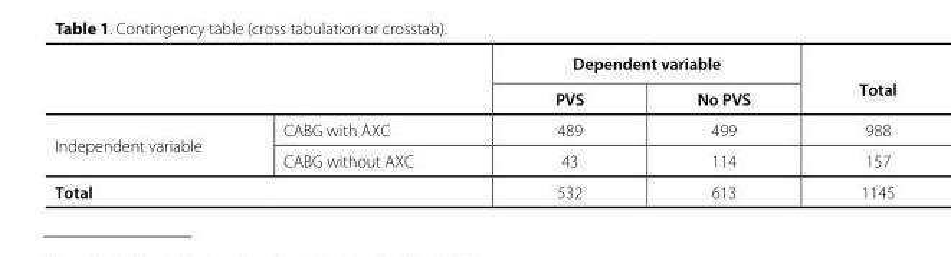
<table><thead><tr><td rowspan="2"></td><td rowspan="2"></td><td colspan="2">Dependent variable</td><td rowspan="2">Total</td></tr><tr><td>PVS</td><td>No PVS</td></tr></thead><tbody><tr><td rowspan="2">Independent variable</td><td>CABG with AXC</td><td>489</td><td>499</td><td>988</td></tr><tr><td>CABG without AXC</td><td>43</td><td>114</td><td>157</td></tr><tr><td colspan="2">Total</td><td>532</td><td>613</td><td>1145</td></tr></tbody></table>